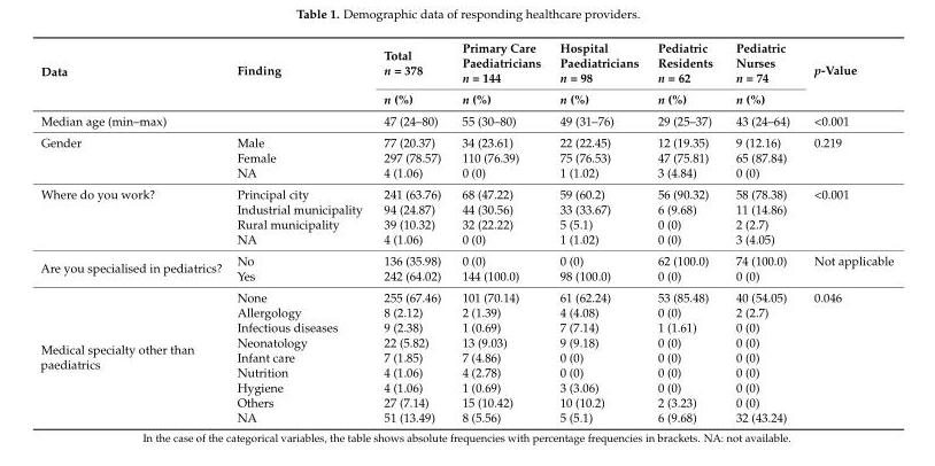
<table><thead><tr><td rowspan="2">Data</td><td rowspan="2">Finding</td><td rowspan="2">Total n = 378 n (%)</td><td rowspan="2">Primary Care Paediatricians n = 144 n (%)</td><td rowspan="2">Hospital Paediatricians n = 98 n (%)</td><td rowspan="2">Pediatric Residents n = 62 n (%)</td><td rowspan="2">Pediatric Nurses n = 74 n (%)</td><td rowspan="2">p-Value</td></tr><tr></tr></thead><tbody><tr><td>Median age (min–max)</td><td></td><td>47 (24–80)</td><td>55 (30–80)</td><td>49 (31–76)</td><td>29 (25–37)</td><td>43 (24–64)</td><td>&lt;0.001</td></tr><tr><td rowspan="3">Gender</td><td>Male</td><td>77 (20.37)</td><td>34 (23.61)</td><td>22 (22.45)</td><td>12 (19.35)</td><td>9 (12.16)</td><td>0.219</td></tr><tr><td>Female</td><td>297 (78.57)</td><td>110 (76.39)</td><td>75 (76.53)</td><td>47 (75.81)</td><td>65 (87.84)</td><td></td></tr><tr><td>NA</td><td>4 (1.06)</td><td>0 (0)</td><td>1 (1.02)</td><td>3 (4.84)</td><td>0 (0)</td><td></td></tr><tr><td rowspan="4">Where do you work?</td><td>Principal city</td><td>241 (63.76)</td><td>68 (47.22)</td><td>59 (60.2)</td><td>56 (90.32)</td><td>58 (78.38)</td><td>&lt;0.001</td></tr><tr><td>Industrial municipality</td><td>94 (24.87)</td><td>44 (30.56)</td><td>33 (33.67)</td><td>6 (9.68)</td><td>11 (14.86)</td><td></td></tr><tr><td>Rural municipality</td><td>39 (10.32)</td><td>32 (22.22)</td><td>5 (5.1)</td><td>0 (0)</td><td>2 (2.7)</td><td></td></tr><tr><td>NA</td><td>4 (1.06)</td><td>0 (0)</td><td>1 (1.02)</td><td>0 (0)</td><td>3 (4.05)</td><td></td></tr><tr><td rowspan="2">Are you specialised in pediatrics?</td><td>No</td><td>136 (35.98)</td><td>0 (0)</td><td>0 (0)</td><td>62 (100.0)</td><td>74 (100.0)</td><td>Not applicable</td></tr><tr><td>Yes</td><td>242 (64.02)</td><td>144 (100.0)</td><td>98 (100.0)</td><td>0 (0)</td><td>0 (0)</td><td></td></tr><tr><td rowspan="9">Medical specialty other than paediatrics</td><td>None</td><td>255 (67.46)</td><td>101 (70.14)</td><td>61 (62.24)</td><td>53 (85.48)</td><td>40 (54.05)</td><td>0.046</td></tr><tr><td>Allergology</td><td>8 (2.12)</td><td>2 (1.39)</td><td>4 (4.08)</td><td>0 (0)</td><td>2 (2.7)</td><td></td></tr><tr><td>Infectious diseases</td><td>9 (2.38)</td><td>1 (0.69)</td><td>7 (7.14)</td><td>1 (1.61)</td><td>0 (0)</td><td></td></tr><tr><td>Neonatology</td><td>22 (5.82)</td><td>13 (9.03)</td><td>9 (9.18)</td><td>0 (0)</td><td>0 (0)</td><td></td></tr><tr><td>Infant care</td><td>7 (1.85)</td><td>7 (4.86)</td><td>0 (0)</td><td>0 (0)</td><td>0 (0)</td><td></td></tr><tr><td>Nutrition</td><td>4 (1.06)</td><td>4 (2.78)</td><td>0 (0)</td><td>0 (0)</td><td>0 (0)</td><td></td></tr><tr><td>Hygiene</td><td>4 (1.06)</td><td>1 (0.69)</td><td>3 (3.06)</td><td>0 (0)</td><td>0 (0)</td><td></td></tr><tr><td>Others</td><td>27 (7.14)</td><td>15 (10.42)</td><td>10 (10.2)</td><td>2 (3.23)</td><td>0 (0)</td><td></td></tr><tr><td>NA</td><td>51 (13.49)</td><td>8 (5.56)</td><td>5 (5.1)</td><td>6 (9.68)</td><td>32 (43.24)</td><td></td></tr></tbody></table>